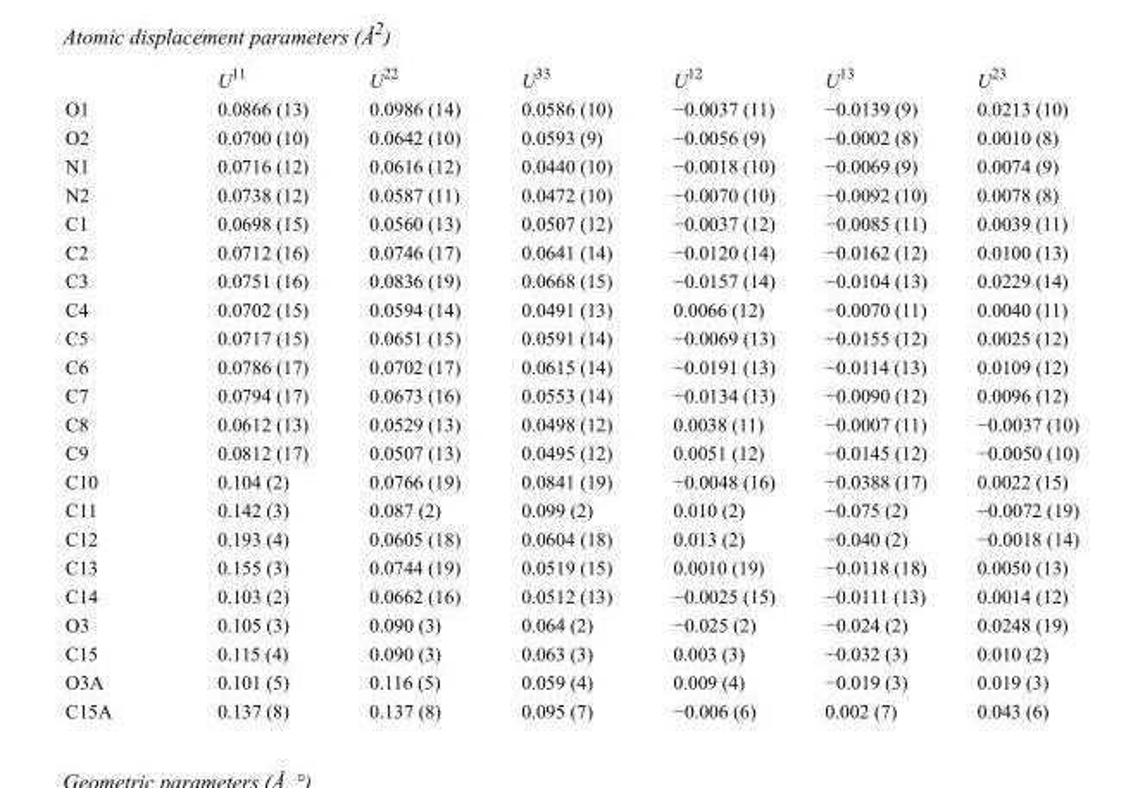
<table><thead><tr><td></td><td>U<sup>11</sup></td><td>U<sup>22</sup></td><td>U<sup>33</sup></td><td>U<sup>12</sup></td><td>U<sup>13</sup></td><td>U<sup>23</sup></td></tr></thead><tbody><tr><td>O1</td><td>0.0866 (13)</td><td>0.0986 (14)</td><td>0.0586 (10)</td><td>−0.0037 (11)</td><td>−0.0139 (9)</td><td>0.0213 (10)</td></tr><tr><td>O2</td><td>0.0700 (10)</td><td>0.0642 (10)</td><td>0.0593 (9)</td><td>−0.0056 (9)</td><td>−0.0002 (8)</td><td>0.0010 (8)</td></tr><tr><td>N1</td><td>0.0716 (12)</td><td>0.0616 (12)</td><td>0.0440 (10)</td><td>−0.0018 (10)</td><td>−0.0069 (9)</td><td>0.0074 (9)</td></tr><tr><td>N2</td><td>0.0738 (12)</td><td>0.0587 (11)</td><td>0.0472 (10)</td><td>−0.0070 (10)</td><td>−0.0092 (10)</td><td>0.0078 (8)</td></tr><tr><td>C1</td><td>0.0698 (15)</td><td>0.0560 (13)</td><td>0.0507 (12)</td><td>−0.0037 (12)</td><td>−0.0085 (11)</td><td>0.0039 (11)</td></tr><tr><td>C2</td><td>0.0712 (16)</td><td>0.0746 (17)</td><td>0.0641 (14)</td><td>−0.0120 (14)</td><td>−0.0162 (12)</td><td>0.0100 (13)</td></tr><tr><td>C3</td><td>0.0751 (16)</td><td>0.0836 (19)</td><td>0.0668 (15)</td><td>−0.0157 (14)</td><td>−0.0104 (13)</td><td>0.0229 (14)</td></tr><tr><td>C4</td><td>0.0702 (15)</td><td>0.0594 (14)</td><td>0.0491 (13)</td><td>0.0066 (12)</td><td>−0.0070 (11)</td><td>0.0040 (11)</td></tr><tr><td>C5</td><td>0.0717 (15)</td><td>0.0651 (15)</td><td>0.0591 (14)</td><td>−0.0069 (13)</td><td>−0.0155 (12)</td><td>0.0025 (12)</td></tr><tr><td>C6</td><td>0.0786 (17)</td><td>0.0702 (17)</td><td>0.0615 (14)</td><td>−0.0191 (13)</td><td>−0.0114 (13)</td><td>0.0109 (12)</td></tr><tr><td>C7</td><td>0.0794 (17)</td><td>0.0673 (16)</td><td>0.0553 (14)</td><td>−0.0134 (13)</td><td>−0.0090 (12)</td><td>0.0096 (12)</td></tr><tr><td>C8</td><td>0.0612 (13)</td><td>0.0529 (13)</td><td>0.0498 (12)</td><td>0.0038 (11)</td><td>−0.0007 (11)</td><td>−0.0037 (10)</td></tr><tr><td>C9</td><td>0.0812 (17)</td><td>0.0507 (13)</td><td>0.0495 (12)</td><td>0.0051 (12)</td><td>−0.0145 (12)</td><td>−0.0050 (10)</td></tr><tr><td>C10</td><td>0.104 (2)</td><td>0.0766 (19)</td><td>0.0841 (19)</td><td>−0.0048 (16)</td><td>−0.0388 (17)</td><td>0.0022 (15)</td></tr><tr><td>C11</td><td>0.142 (3)</td><td>0.087 (2)</td><td>0.099 (2)</td><td>0.010 (2)</td><td>−0.075 (2)</td><td>−0.0072 (19)</td></tr><tr><td>C12</td><td>0.193 (4)</td><td>0.0605 (18)</td><td>0.0604 (18)</td><td>0.013 (2)</td><td>−0.040 (2)</td><td>−0.0018 (14)</td></tr><tr><td>C13</td><td>0.155 (3)</td><td>0.0744 (19)</td><td>0.0519 (15)</td><td>0.0010 (19)</td><td>−0.0118 (18)</td><td>0.0050 (13)</td></tr><tr><td>C14</td><td>0.103 (2)</td><td>0.0662 (16)</td><td>0.0512 (13)</td><td>−0.0025 (15)</td><td>−0.0111 (13)</td><td>0.0014 (12)</td></tr><tr><td>O3</td><td>0.105 (3)</td><td>0.090 (3)</td><td>0.064 (2)</td><td>−0.025 (2)</td><td>−0.024 (2)</td><td>0.0248 (19)</td></tr><tr><td>C15</td><td>0.115 (4)</td><td>0.090 (3)</td><td>0.063 (3)</td><td>0.003 (3)</td><td>−0.032 (3)</td><td>0.010 (2)</td></tr><tr><td>O3A</td><td>0.101 (5)</td><td>0.116 (5)</td><td>0.059 (4)</td><td>0.009 (4)</td><td>−0.019 (3)</td><td>0.019 (3)</td></tr><tr><td>C15A</td><td>0.137 (8)</td><td>0.137 (8)</td><td>0.095 (7)</td><td>−0.006 (6)</td><td>0.002 (7)</td><td>0.043 (6)</td></tr></tbody></table>